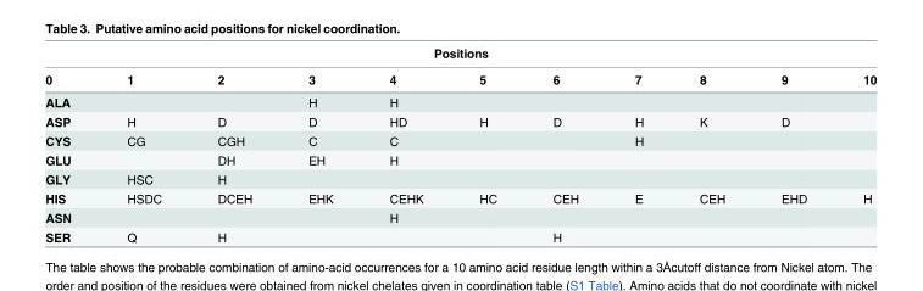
<table><thead><tr><td colspan="11">Positions</td></tr><tr><td>0</td><td>1</td><td>2</td><td>3</td><td>4</td><td>5</td><td>6</td><td>7</td><td>8</td><td>9</td><td>10</td></tr></thead><tbody><tr><td>ALA</td><td></td><td></td><td>H</td><td>H</td><td></td><td></td><td></td><td></td><td></td><td></td></tr><tr><td>ASP</td><td>H</td><td>D</td><td>D</td><td>HD</td><td>H</td><td>D</td><td>H</td><td>K</td><td>D</td><td></td></tr><tr><td>CYS</td><td>CG</td><td>CGH</td><td>C</td><td>C</td><td></td><td></td><td>H</td><td></td><td></td><td></td></tr><tr><td>GLU</td><td></td><td>DH</td><td>EH</td><td>H</td><td></td><td></td><td></td><td></td><td></td><td></td></tr><tr><td>GLY</td><td>HSC</td><td>H</td><td></td><td></td><td></td><td></td><td></td><td></td><td></td><td></td></tr><tr><td>HIS</td><td>HSDC</td><td>DCEH</td><td>EHK</td><td>CEHK</td><td>HC</td><td>CEH</td><td>E</td><td>CEH</td><td>EHD</td><td>H</td></tr><tr><td>ASN</td><td></td><td></td><td></td><td>H</td><td></td><td></td><td></td><td></td><td></td><td></td></tr><tr><td>SER</td><td>Q</td><td>H</td><td></td><td></td><td></td><td>H</td><td></td><td></td><td></td><td></td></tr></tbody></table>